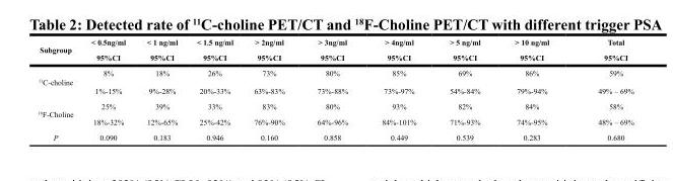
<table><thead><tr><td rowspan="2">Subgroup</td><td rowspan="2">&lt; 0.5ng/ml 95%CI</td><td rowspan="2">&lt; 1 ng/ml 95%CI</td><td rowspan="2">&lt; 1.5 ng/ml 95%CI</td><td rowspan="2">&gt; 2ng/ml 95%CI</td><td rowspan="2">&gt; 3ng/ml 95%CI</td><td rowspan="2">&gt; 4ng/ml 95%CI</td><td rowspan="2">&gt; 5 ng/ml 95%CI</td><td rowspan="2">&gt; 10 ng/ml 95%CI</td><td rowspan="2">Total 95%CI</td></tr><tr></tr></thead><tbody><tr><td rowspan="2"><sup>11</sup>C-choline</td><td>8%</td><td>18%</td><td>26%</td><td>73%</td><td>80%</td><td>85%</td><td>69%</td><td>86%</td><td>59%</td></tr><tr><td>1%-15%</td><td>9%-28%</td><td>20%-33%</td><td>63%-83%</td><td>73%-88%</td><td>73%-97%</td><td>54%-84%</td><td>79%-94%</td><td>49% – 69%</td></tr><tr><td rowspan="2"><sup>18</sup>F-Choline</td><td>25%</td><td>39%</td><td>33%</td><td>83%</td><td>80%</td><td>93%</td><td>82%</td><td>84%</td><td>58%</td></tr><tr><td>18%-32%</td><td>12%-65%</td><td>25%-42%</td><td>76%-90%</td><td>64%-96%</td><td>84%-101%</td><td>71%-93%</td><td>74%-95%</td><td>48% – 69%</td></tr><tr><td>P</td><td>0.090</td><td>0.183</td><td>0.946</td><td>0.160</td><td>0.858</td><td>0.449</td><td>0.539</td><td>0.283</td><td>0.680</td></tr></tbody></table>